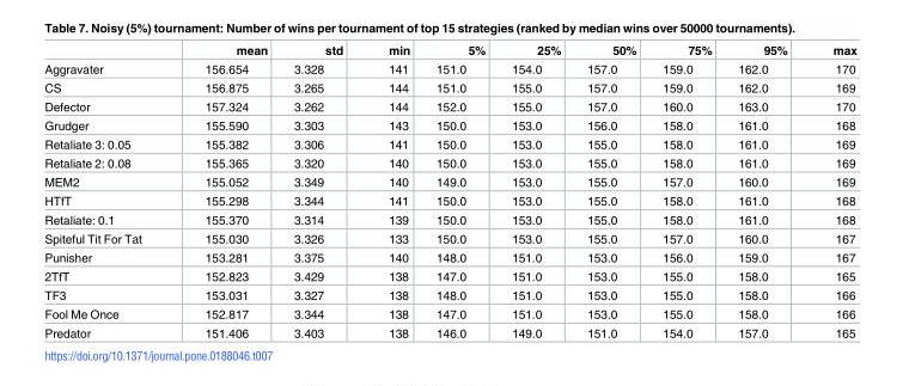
<table><thead><tr><td></td><td>mean</td><td>std</td><td>min</td><td>5%</td><td>25%</td><td>50%</td><td>75%</td><td>95%</td><td>max</td></tr></thead><tbody><tr><td>Aggravater</td><td>156.654</td><td>3.328</td><td>141</td><td>151.0</td><td>154.0</td><td>157.0</td><td>159.0</td><td>162.0</td><td>170</td></tr><tr><td>CS</td><td>156.875</td><td>3.265</td><td>144</td><td>151.0</td><td>155.0</td><td>157.0</td><td>159.0</td><td>162.0</td><td>169</td></tr><tr><td>Defector</td><td>157.324</td><td>3.262</td><td>144</td><td>152.0</td><td>155.0</td><td>157.0</td><td>160.0</td><td>163.0</td><td>170</td></tr><tr><td>Grudger</td><td>155.590</td><td>3.303</td><td>143</td><td>150.0</td><td>153.0</td><td>156.0</td><td>158.0</td><td>161.0</td><td>168</td></tr><tr><td>Retaliate 3: 0.05</td><td>155.382</td><td>3.306</td><td>141</td><td>150.0</td><td>153.0</td><td>155.0</td><td>158.0</td><td>161.0</td><td>169</td></tr><tr><td>Retaliate 2: 0.08</td><td>155.365</td><td>3.320</td><td>140</td><td>150.0</td><td>153.0</td><td>155.0</td><td>158.0</td><td>161.0</td><td>169</td></tr><tr><td>MEM2</td><td>155.052</td><td>3.349</td><td>140</td><td>149.0</td><td>153.0</td><td>155.0</td><td>157.0</td><td>160.0</td><td>169</td></tr><tr><td>HTfT</td><td>155.298</td><td>3.344</td><td>141</td><td>150.0</td><td>153.0</td><td>155.0</td><td>158.0</td><td>161.0</td><td>168</td></tr><tr><td>Retaliate: 0.1</td><td>155.370</td><td>3.314</td><td>139</td><td>150.0</td><td>153.0</td><td>155.0</td><td>158.0</td><td>161.0</td><td>168</td></tr><tr><td>Spiteful Tit For Tat</td><td>155.030</td><td>3.326</td><td>133</td><td>150.0</td><td>153.0</td><td>155.0</td><td>157.0</td><td>160.0</td><td>167</td></tr><tr><td>Punisher</td><td>153.281</td><td>3.375</td><td>140</td><td>148.0</td><td>151.0</td><td>153.0</td><td>156.0</td><td>159.0</td><td>167</td></tr><tr><td>2TfT</td><td>152.823</td><td>3.429</td><td>138</td><td>147.0</td><td>151.0</td><td>153.0</td><td>155.0</td><td>158.0</td><td>165</td></tr><tr><td>TF3</td><td>153.031</td><td>3.327</td><td>138</td><td>148.0</td><td>151.0</td><td>153.0</td><td>155.0</td><td>158.0</td><td>166</td></tr><tr><td>Fool Me Once</td><td>152.817</td><td>3.344</td><td>138</td><td>147.0</td><td>151.0</td><td>153.0</td><td>155.0</td><td>158.0</td><td>166</td></tr><tr><td>Predator</td><td>151.406</td><td>3.403</td><td>138</td><td>146.0</td><td>149.0</td><td>151.0</td><td>154.0</td><td>157.0</td><td>165</td></tr></tbody></table>